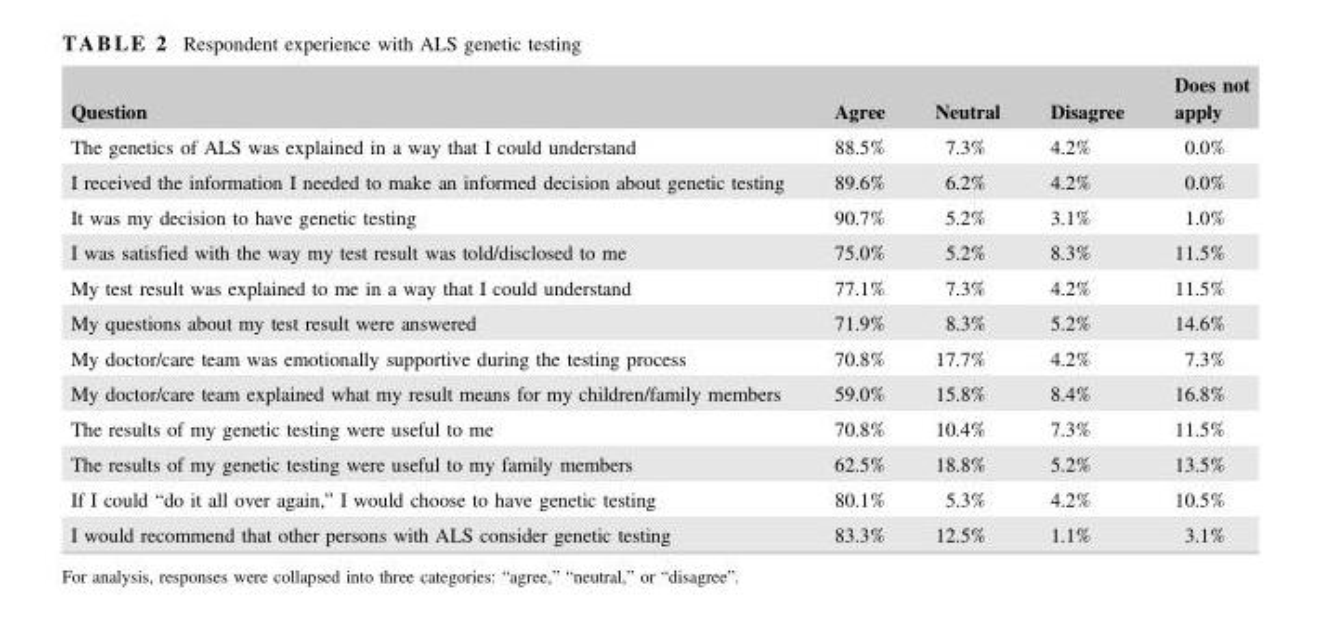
<table><thead><tr><td>Question</td><td>Agree</td><td>Neutral</td><td>Disagree</td><td>Does not apply</td></tr></thead><tbody><tr><td>The genetics of ALS was explained in a way that I could understand</td><td>88.5%</td><td>7.3%</td><td>4.2%</td><td>0.0%</td></tr><tr><td>I received the information I needed to make an informed decision about genetic testing</td><td>89.6%</td><td>6.2%</td><td>4.2%</td><td>0.0%</td></tr><tr><td>It was my decision to have genetic testing</td><td>90.7%</td><td>5.2%</td><td>3.1%</td><td>1.0%</td></tr><tr><td>I was satisfied with the way my test result was told/disclosed to me</td><td>75.0%</td><td>5.2%</td><td>8.3%</td><td>11.5%</td></tr><tr><td>My test result was explained to me in a way that I could understand</td><td>77.1%</td><td>7.3%</td><td>4.2%</td><td>11.5%</td></tr><tr><td>My questions about my test result were answered</td><td>71.9%</td><td>8.3%</td><td>5.2%</td><td>14.6%</td></tr><tr><td>My doctor/care team was emotionally supportive during the testing process</td><td>70.8%</td><td>17.7%</td><td>4.2%</td><td>7.3%</td></tr><tr><td>My doctor/care team explained what my result means for my children/family members</td><td>59.0%</td><td>15.8%</td><td>8.4%</td><td>16.8%</td></tr><tr><td>The results of my genetic testing were useful to me</td><td>70.8%</td><td>10.4%</td><td>7.3%</td><td>11.5%</td></tr><tr><td>The results of my genetic testing were useful to my family members</td><td>62.5%</td><td>18.8%</td><td>5.2%</td><td>13.5%</td></tr><tr><td>If I could “do it all over again,” I would choose to have genetic testing</td><td>80.1%</td><td>5.3%</td><td>4.2%</td><td>10.5%</td></tr><tr><td>I would recommend that other persons with ALS consider genetic testing</td><td>83.3%</td><td>12.5%</td><td>1.1%</td><td>3.1%</td></tr></tbody></table>